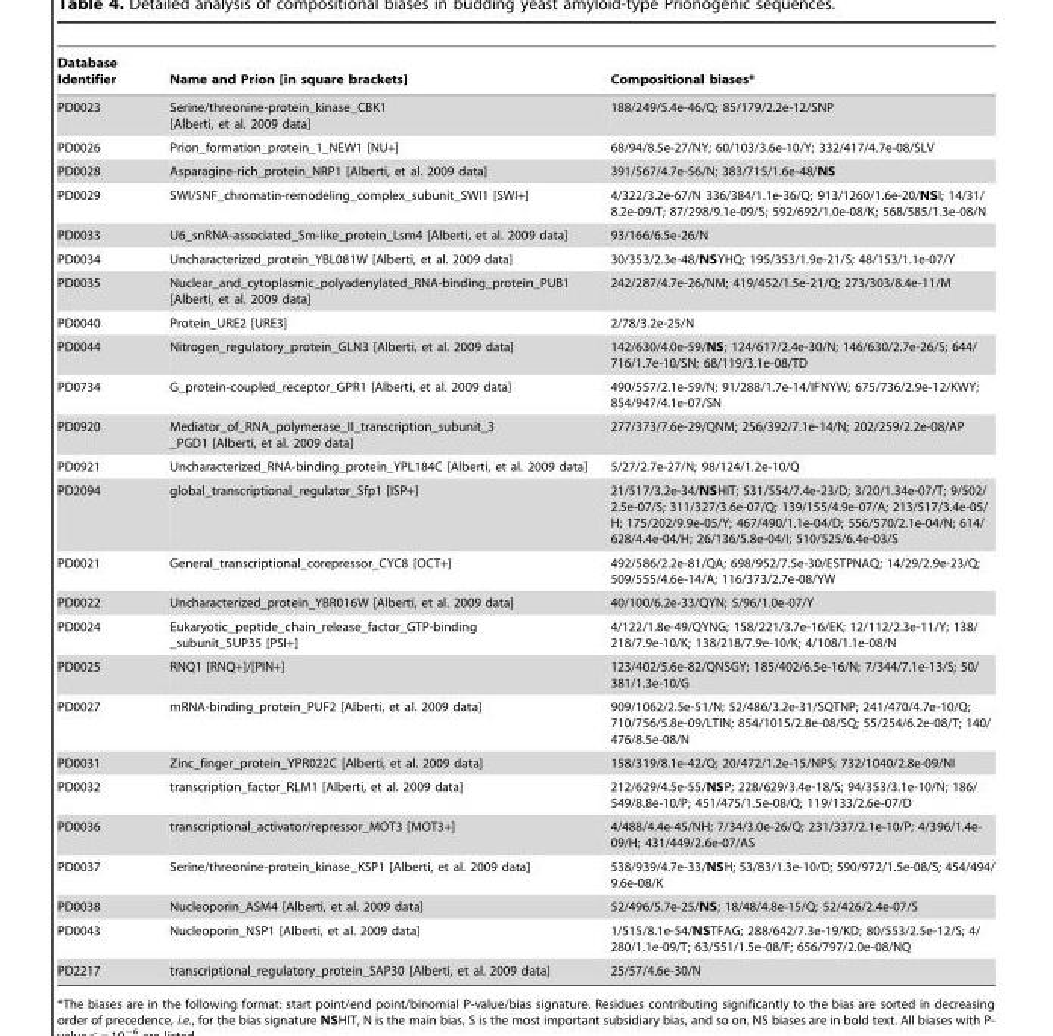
<table><thead><tr><td>Database Identifier</td><td>Name and Prion [in square brackets]</td><td>Compositional biases*</td></tr></thead><tbody><tr><td>PD0023</td><td>Serine/threonine-protein_kinase_CBK1 [Alberti, et al. 2009 data]</td><td>188/249/5.4e-46/Q; 85/179/2.2e-12/SNP</td></tr><tr><td>PD0026</td><td>Prion_formation_protein_1_NEW1 [NU+]</td><td>68/94/8.5e-27/NY; 60/103/3.6e-10/Y; 332/417/4.7e-08/SLV</td></tr><tr><td>PD0028</td><td>Asparagine-rich_protein_NRP1 [Alberti, et al. 2009 data]</td><td>391/567/4.7e-56/N; 383/715/1.6e-48/NS</td></tr><tr><td>PD0029</td><td>SWI/SNF_chromatin-remodeling_complex_subunit_SWI1 [SWI+]</td><td>4/322/3.2e-67/N 336/384/1.1e-36/Q; 913/1260/1.6e-20/NSI; 14/31/ 8.2e-09/T; 87/298/9.1e-09/S; 592/692/1.0e-08/K; 568/585/1.3e-08/N</td></tr><tr><td>PD0033</td><td>U6_snRNA-associated_Sm-like_protein_Lsm4 [Alberti, et al. 2009 data]</td><td>93/166/6.5e-26/N</td></tr><tr><td>PD0034</td><td>Uncharacterized_protein_YBL081W [Alberti, et al. 2009 data]</td><td>30/353/2.3e-48/NSYHQ; 195/353/1.9e-21/S; 48/153/1.1e-07/Y</td></tr><tr><td>PD0035</td><td>Nuclear_and_cytoplasmic_polyadenylated_RNA-binding_protein_PUB1 [Alberti, et al. 2009 data]</td><td>242/287/4.7e-26/NM; 419/452/1.5e-21/Q; 273/303/8.4e-11/M</td></tr><tr><td>PD0040</td><td>Protein_URE2 [URE3]</td><td>2/78/3.2e-25/N</td></tr><tr><td>PD0044</td><td>Nitrogen_regulatory_protein_GLN3 [Alberti, et al. 2009 data]</td><td>142/630/4.0e-59/NS; 124/617/2.4e-30/N; 146/630/2.7e-26/S; 644/ 716/1.7e-10/SN; 68/119/3.1e-08/TD</td></tr><tr><td>PD0734</td><td>G_protein-coupled_receptor_GPR1 [Alberti, et al. 2009 data]</td><td>490/557/2.1e-59/N; 91/288/1.7e-14/IFNYW; 675/736/2.9e-12/KWY; 854/947/4.1e-07/SN</td></tr><tr><td>PD0920</td><td>Mediator_of_RNA_polymerase_II_transcription_subunit_3 _PGD1 [Alberti, et al. 2009 data]</td><td>277/373/7.6e-29/QNM; 256/392/7.1e-14/N; 202/259/2.2e-08/AP</td></tr><tr><td>PD0921</td><td>Uncharacterized_RNA-binding_protein_YPL184C [Alberti, et al. 2009 data]</td><td>5/27/2.7e-27/N; 98/124/1.2e-10/Q</td></tr><tr><td>PD2094</td><td>global_transcriptional_regulator_Sfp1 [ISP+]</td><td>21/517/3.2e-34/NSHIT; 531/554/7.4e-23/D; 3/20/1.34e-07/T; 9/502/ 2.5e-07/S; 311/327/3.6e-07/Q; 139/155/4.9e-07/A; 213/517/3.4e-05/ H; 175/202/9.9e-05/Y; 467/490/1.1e-04/D; 556/570/2.1e-04/N; 614/ 628/4.4e-04/H; 26/136/5.8e-04/I; 510/525/6.4e-03/S</td></tr><tr><td>PD0021</td><td>General_transcriptional_corepressor_CYC8 [OCT+]</td><td>492/586/2.2e-81/QA; 698/952/7.5e-30/ESTPNAQ; 14/29/2.9e-23/Q; 509/555/4.6e-14/A; 116/373/2.7e-08/YW</td></tr><tr><td>PD0022</td><td>Uncharacterized_protein_YBR016W [Alberti, et al. 2009 data]</td><td>40/100/6.2e-33/QYN; 5/96/1.0e-07/Y</td></tr><tr><td>PD0024</td><td>Eukaryotic_peptide_chain_release_factor_GTP-binding _subunit_SUP35 [PSI+]</td><td>4/122/1.8e-49/QYNG; 158/221/3.7e-16/EK; 12/112/2.3e-11/Y; 138/ 218/7.9e-10/K; 138/218/7.9e-10/K; 4/108/1.1e-08/N</td></tr><tr><td>PD0025</td><td>RNQ1 [RNQ+]/[PIN+]</td><td>123/402/5.6e-82/QNSGY; 185/402/6.5e-16/N; 7/344/7.1e-13/S; 50/ 381/1.3e-10/G</td></tr><tr><td>PD0027</td><td>mRNA-binding_protein_PUF2 [Alberti, et al. 2009 data]</td><td>909/1062/2.5e-51/N; 52/486/3.2e-31/SQTNP; 241/470/4.7e-10/Q; 710/756/5.8e-09/LTIN; 854/1015/2.8e-08/SQ; 55/254/6.2e-08/T; 140/ 476/8.5e-08/N</td></tr><tr><td>PD0031</td><td>Zinc_finger_protein_YPR022C [Alberti, et al. 2009 data]</td><td>158/319/8.1e-42/Q; 20/472/1.2e-15/NPS; 732/1040/2.8e-09/NI</td></tr><tr><td>PD0032</td><td>transcription_factor_RLM1 [Alberti, et al. 2009 data]</td><td>212/629/4.5e-55/NSP; 228/629/3.4e-18/S; 94/353/3.1e-10/N; 186/ 549/8.8e-10/P; 451/475/1.5e-08/Q; 119/133/2.6e-07/D</td></tr><tr><td>PD0036</td><td>transcriptional_activator/repressor_MOT3 [MOT3+]</td><td>4/488/4.4e-45/NH; 7/34/3.0e-26/Q; 231/337/2.1e-10/P; 4/396/1.4e- 09/H; 431/449/2.6e-07/AS</td></tr><tr><td>PD0037</td><td>Serine/threonine-protein_kinase_KSP1 [Alberti, et al. 2009 data]</td><td>538/939/4.7e-33/NSH; 53/83/1.3e-10/D; 590/972/1.5e-08/S; 454/494/ 9.6e-08/K</td></tr><tr><td>PD0038</td><td>Nucleoporin_ASM4 [Alberti, et al. 2009 data]</td><td>52/496/5.7e-25/NS; 18/48/4.8e-15/Q; 52/426/2.4e-07/S</td></tr><tr><td>PD0043</td><td>Nucleoporin_NSP1 [Alberti, et al. 2009 data]</td><td>1/515/8.1e-54/NSTFAG; 288/642/7.3e-19/KD; 80/553/2.5e-12/S; 4/ 280/1.1e-09/T; 63/551/1.5e-08/F; 656/797/2.0e-08/NQ</td></tr><tr><td>PD2217</td><td>transcriptional_regulatory_protein_SAP30 [Alberti, et al. 2009 data]</td><td>25/57/4.6e-30/N</td></tr></tbody></table>